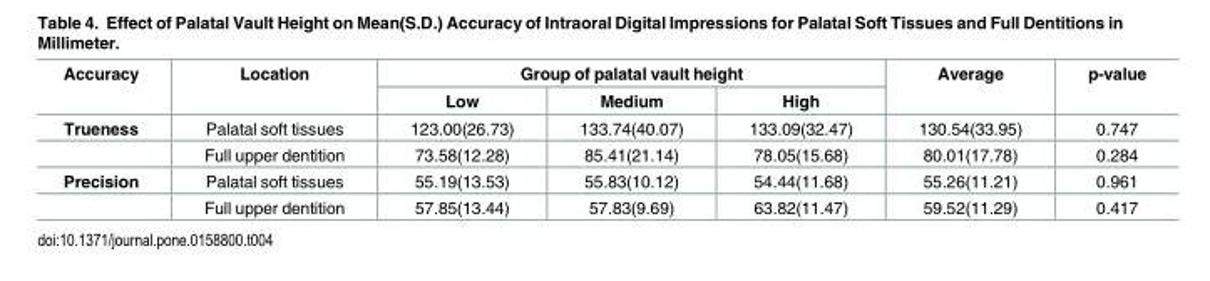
<table><thead><tr><td rowspan="2">Accuracy</td><td rowspan="2">Location</td><td colspan="3">Group of palatal vault height</td><td rowspan="2">Average</td><td rowspan="2">p-value</td></tr><tr><td>Low</td><td>Medium</td><td>High</td></tr></thead><tbody><tr><td rowspan="2">Trueness</td><td>Palatal soft tissues</td><td>123.00(26.73)</td><td>133.74(40.07)</td><td>133.09(32.47)</td><td>130.54(33.95)</td><td>0.747</td></tr><tr><td>Full upper dentition</td><td>73.58(12.28)</td><td>85.41(21.14)</td><td>78.05(15.68)</td><td>80.01(17.78)</td><td>0.284</td></tr><tr><td rowspan="2">Precision</td><td>Palatal soft tissues</td><td>55.19(13.53)</td><td>55.83(10.12)</td><td>54.44(11.68)</td><td>55.26(11.21)</td><td>0.961</td></tr><tr><td>Full upper dentition</td><td>57.85(13.44)</td><td>57.83(9.69)</td><td>63.82(11.47)</td><td>59.52(11.29)</td><td>0.417</td></tr></tbody></table>